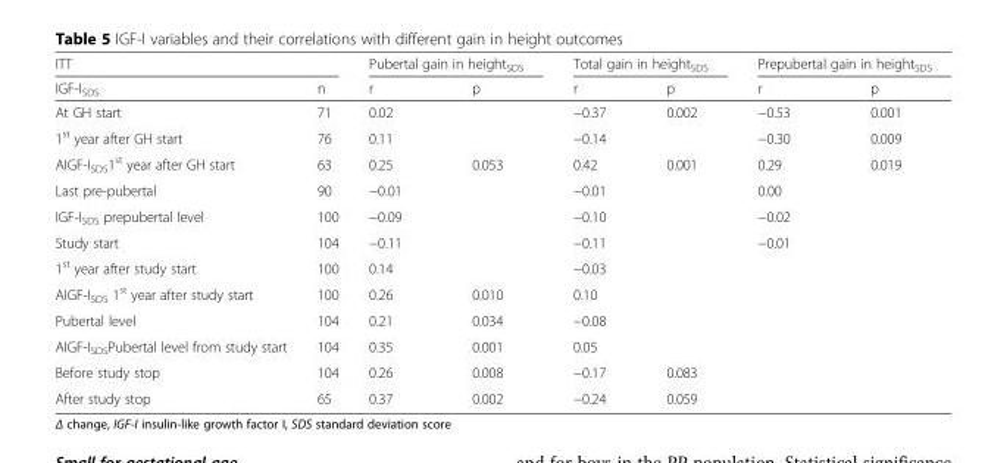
<table><thead><tr><td colspan="2">ITT</td><td colspan="2">Pubertal gain in height<sub>SDS</sub></td><td colspan="2">Total gain in height<sub>SDS</sub></td><td colspan="2">Prepubertal gain in height<sub>SDS</sub></td></tr><tr><td>IGF-I<sub>SDS</sub></td><td>n</td><td>r</td><td>p</td><td>r</td><td>p</td><td>r</td><td>p</td></tr></thead><tbody><tr><td>At GH start</td><td>71</td><td>0.02</td><td></td><td>−0.37</td><td>0.002</td><td>−0.53</td><td>0.001</td></tr><tr><td>1<sup>st</sup> year after GH start</td><td>76</td><td>0.11</td><td></td><td>−0.14</td><td></td><td>−0.30</td><td>0.009</td></tr><tr><td>AIGF-I<sub>SDS</sub>1<sup>st</sup> year after GH start</td><td>63</td><td>0.25</td><td>0.053</td><td>0.42</td><td>0.001</td><td>0.29</td><td>0.019</td></tr><tr><td>Last pre-pubertal</td><td>90</td><td>−0.01</td><td></td><td>−0.01</td><td></td><td>0.00</td><td></td></tr><tr><td>IGF-I<sub>SDS</sub> prepubertal level</td><td>100</td><td>−0.09</td><td></td><td>−0.10</td><td></td><td>−0.02</td><td></td></tr><tr><td>Study start</td><td>104</td><td>−0.11</td><td></td><td>−0.11</td><td></td><td>−0.01</td><td></td></tr><tr><td>1<sup>st</sup> year after study start</td><td>100</td><td>0.14</td><td></td><td>−0.03</td><td></td><td></td><td></td></tr><tr><td>AIGF-I<sub>SDS</sub> 1<sup>st</sup> year after study start</td><td>100</td><td>0.26</td><td>0.010</td><td>0.10</td><td></td><td></td><td></td></tr><tr><td>Pubertal level</td><td>104</td><td>0.21</td><td>0.034</td><td>−0.08</td><td></td><td></td><td></td></tr><tr><td>AIGF-I<sub>SDS</sub>Pubertal level from study start</td><td>104</td><td>0.35</td><td>0.001</td><td>0.05</td><td></td><td></td><td></td></tr><tr><td>Before study stop</td><td>104</td><td>0.26</td><td>0.008</td><td>−0.17</td><td>0.083</td><td></td><td></td></tr><tr><td>After study stop</td><td>65</td><td>0.37</td><td>0.002</td><td>−0.24</td><td>0.059</td><td></td><td></td></tr></tbody></table>